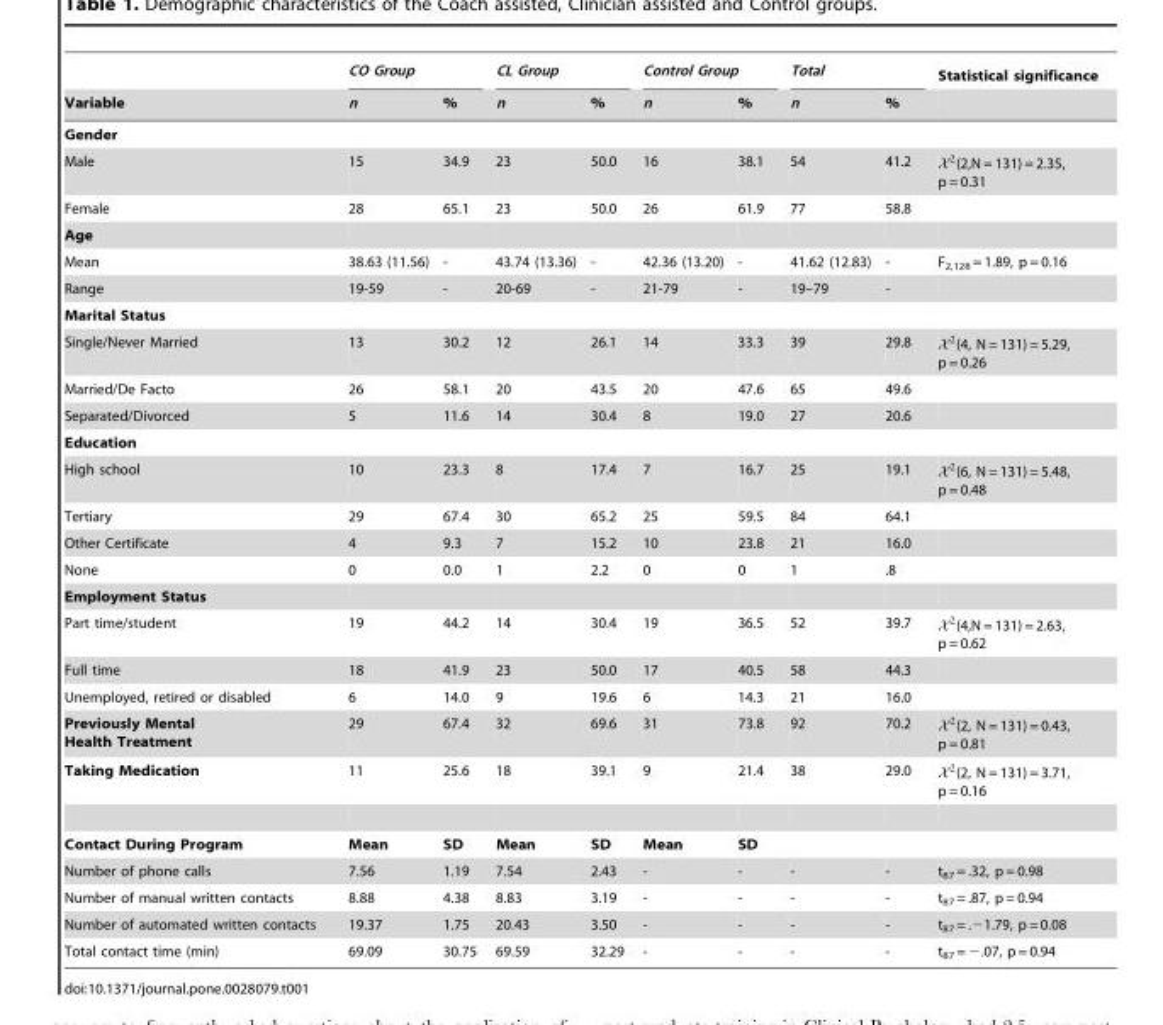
<table><thead><tr><td rowspan="2">Variable</td><td colspan="2">CO Group</td><td colspan="2">CL Group</td><td colspan="2">Control Group</td><td colspan="2">Total</td><td rowspan="2">Statistical significance</td></tr><tr><td>n</td><td>%</td><td>n</td><td>%</td><td>n</td><td>%</td><td>n</td><td>%</td></tr></thead><tbody><tr><td colspan="10">Gender</td></tr><tr><td>Male</td><td>15</td><td>34.9</td><td>23</td><td>50.0</td><td>16</td><td>38.1</td><td>54</td><td>41.2</td><td>X2(2,N = 131) = 2.35, p = 0.31</td></tr><tr><td>Female</td><td>28</td><td>65.1</td><td>23</td><td>50.0</td><td>26</td><td>61.9</td><td>77</td><td>58.8</td><td></td></tr><tr><td colspan="10">Age</td></tr><tr><td>Mean</td><td>38.63 (11.56)</td><td>-</td><td>43.74 (13.36)</td><td>-</td><td>42.36 (13.20)</td><td>-</td><td>41.62 (12.83)</td><td>-</td><td>F<sub>2,128</sub> = 1.89, p = 0.16</td></tr><tr><td>Range</td><td>19-59</td><td>-</td><td>20-69</td><td>-</td><td>21-79</td><td>-</td><td>19–79</td><td>-</td><td></td></tr><tr><td colspan="10">Marital Status</td></tr><tr><td>Single/Never Married</td><td>13</td><td>30.2</td><td>12</td><td>26.1</td><td>14</td><td>33.3</td><td>39</td><td>29.8</td><td>X2(4, N = 131) = 5.29, p = 0.26</td></tr><tr><td>Married/De Facto</td><td>26</td><td>58.1</td><td>20</td><td>43.5</td><td>20</td><td>47.6</td><td>65</td><td>49.6</td><td></td></tr><tr><td>Separated/Divorced</td><td>5</td><td>11.6</td><td>14</td><td>30.4</td><td>8</td><td>19.0</td><td>27</td><td>20.6</td><td></td></tr><tr><td colspan="10">Education</td></tr><tr><td>High school</td><td>10</td><td>23.3</td><td>8</td><td>17.4</td><td>7</td><td>16.7</td><td>25</td><td>19.1</td><td>X2(6, N = 131) = 5.48, p = 0.48</td></tr><tr><td>Tertiary</td><td>29</td><td>67.4</td><td>30</td><td>65.2</td><td>25</td><td>59.5</td><td>84</td><td>64.1</td><td></td></tr><tr><td>Other Certificate</td><td>4</td><td>9.3</td><td>7</td><td>15.2</td><td>10</td><td>23.8</td><td>21</td><td>16.0</td><td></td></tr><tr><td>None</td><td>0</td><td>0.0</td><td>1</td><td>2.2</td><td>0</td><td>0</td><td>1</td><td>.8</td><td></td></tr><tr><td colspan="10">Employment Status</td></tr><tr><td>Part time/student</td><td>19</td><td>44.2</td><td>14</td><td>30.4</td><td>19</td><td>36.5</td><td>52</td><td>39.7</td><td>X2(4,N = 131) = 2.63, p = 0.62</td></tr><tr><td>Full time</td><td>18</td><td>41.9</td><td>23</td><td>50.0</td><td>17</td><td>40.5</td><td>58</td><td>44.3</td><td></td></tr><tr><td>Unemployed, retired or disabled</td><td>6</td><td>14.0</td><td>9</td><td>19.6</td><td>6</td><td>14.3</td><td>21</td><td>16.0</td><td></td></tr><tr><td>Previously Mental Health Treatment</td><td>29</td><td>67.4</td><td>32</td><td>69.6</td><td>31</td><td>73.8</td><td>92</td><td>70.2</td><td>X2(2, N = 131) = 0.43, p = 0.81</td></tr><tr><td>Taking Medication</td><td>11</td><td>25.6</td><td>18</td><td>39.1</td><td>9</td><td>21.4</td><td>38</td><td>29.0</td><td>X2(2, N = 131) = 3.71, p = 0.16</td></tr><tr><td>Contact During Program</td><td>Mean</td><td>SD</td><td>Mean</td><td>SD</td><td>Mean</td><td>SD</td><td></td><td></td><td></td></tr><tr><td>Number of phone calls</td><td>7.56</td><td>1.19</td><td>7.54</td><td>2.43</td><td>-</td><td>-</td><td>-</td><td>-</td><td>t<sub>87</sub> = .32, p = 0.98</td></tr><tr><td>Number of manual written contacts</td><td>8.88</td><td>4.38</td><td>8.83</td><td>3.19</td><td>-</td><td>-</td><td>-</td><td>-</td><td>t<sub>87</sub> = .87, p = 0.94</td></tr><tr><td>Number of automated written contacts</td><td>19.37</td><td>1.75</td><td>20.43</td><td>3.50</td><td>-</td><td>-</td><td>-</td><td>-</td><td>t<sub>87</sub> = .−1.79, p = 0.08</td></tr><tr><td>Total contact time (min)</td><td>69.09</td><td>30.75</td><td>69.59</td><td>32.29</td><td>-</td><td>-</td><td>-</td><td>-</td><td>t<sub>87</sub> = −.07, p = 0.94</td></tr></tbody></table>